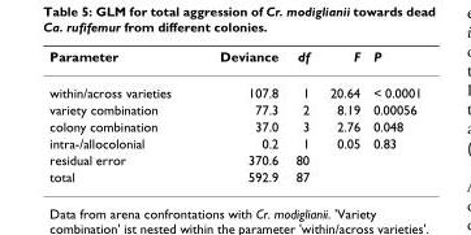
<table><thead><tr><td>Parameter</td><td>Deviance</td><td>df</td><td>F</td><td>P</td></tr></thead><tbody><tr><td>within/across varieties</td><td>107.8</td><td>1</td><td>20.64</td><td>&lt; 0.0001</td></tr><tr><td>variety combination</td><td>77.3</td><td>2</td><td>8.19</td><td>0.00056</td></tr><tr><td>colony combination</td><td>37.0</td><td>3</td><td>2.76</td><td>0.048</td></tr><tr><td>intra-/allocolonial</td><td>0.2</td><td>1</td><td>0.05</td><td>0.83</td></tr><tr><td>residual error</td><td>370.6</td><td>80</td><td></td><td></td></tr><tr><td>total</td><td>592.9</td><td>87</td><td></td><td></td></tr></tbody></table>